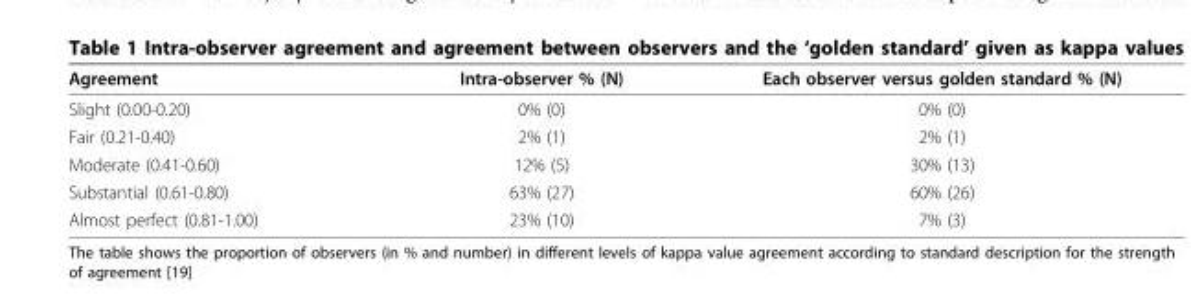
<table><thead><tr><td>Agreement</td><td>Intra-observer % (N)</td><td>Each observer versus golden standard % (N)</td></tr></thead><tbody><tr><td>Slight (0.00-0.20)</td><td>0% (0)</td><td>0% (0)</td></tr><tr><td>Fair (0.21-0.40)</td><td>2% (1)</td><td>2% (1)</td></tr><tr><td>Moderate (0.41-0.60)</td><td>12% (5)</td><td>30% (13)</td></tr><tr><td>Substantial (0.61-0.80)</td><td>63% (27)</td><td>60% (26)</td></tr><tr><td>Almost perfect (0.81-1.00)</td><td>23% (10)</td><td>7% (3)</td></tr></tbody></table>